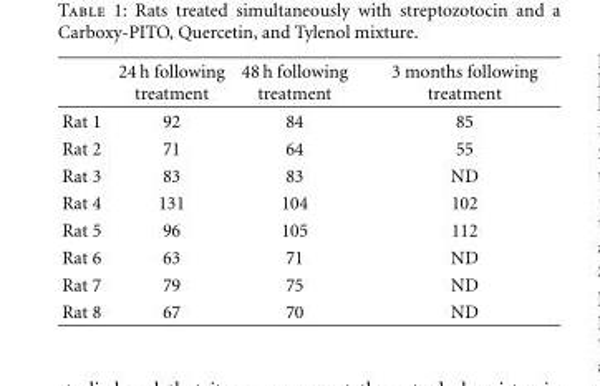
<table><thead><tr><td></td><td>24 h following treatment</td><td>48 h following treatment</td><td>3 months following treatment</td></tr></thead><tbody><tr><td>Rat 1</td><td>92</td><td>84</td><td>85</td></tr><tr><td>Rat 2</td><td>71</td><td>64</td><td>55</td></tr><tr><td>Rat 3</td><td>83</td><td>83</td><td>ND</td></tr><tr><td>Rat 4</td><td>131</td><td>104</td><td>102</td></tr><tr><td>Rat 5</td><td>96</td><td>105</td><td>112</td></tr><tr><td>Rat 6</td><td>63</td><td>71</td><td>ND</td></tr><tr><td>Rat 7</td><td>79</td><td>75</td><td>ND</td></tr><tr><td>Rat 8</td><td>67</td><td>70</td><td>ND</td></tr></tbody></table>